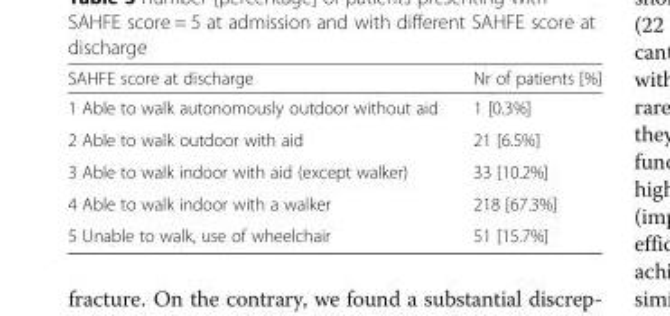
<table><thead><tr><td>SAHFE score at discharge</td><td>Nr of patients [%]</td></tr></thead><tbody><tr><td>1 Able to walk autonomously outdoor without aid</td><td>1 [0.3%]</td></tr><tr><td>2 Able to walk outdoor with aid</td><td>21 [6.5%]</td></tr><tr><td>3 Able to walk indoor with aid (except walker)</td><td>33 [10.2%]</td></tr><tr><td>4 Able to walk indoor with a walker</td><td>218 [67.3%]</td></tr><tr><td>5 Unable to walk, use of wheelchair</td><td>51 [15.7%]</td></tr></tbody></table>